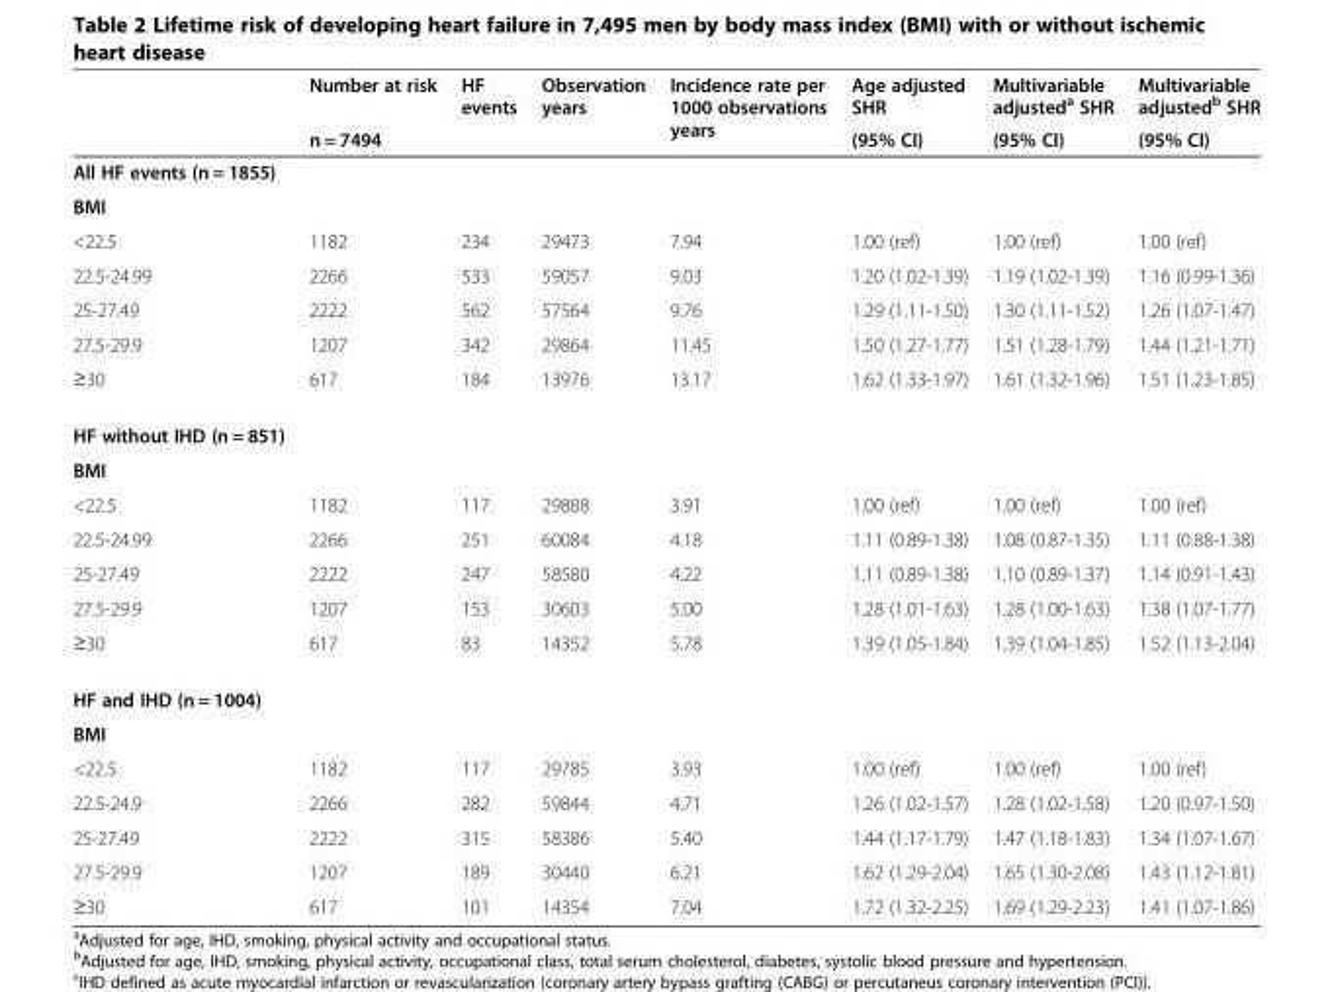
<table><thead><tr><td rowspan="2"></td><td rowspan="2">Number at risk n = 7494</td><td rowspan="2">HF events</td><td rowspan="2">Observation years</td><td rowspan="2">Incidence rate per 1000 observations years</td><td rowspan="2">Age adjusted SHR (95% CI)</td><td rowspan="2">Multivariable adjusted<sup>a</sup> SHR (95% CI)</td><td rowspan="2">Multivariable adjusted<sup>b</sup> SHR (95% CI)</td></tr><tr></tr></thead><tbody><tr><td colspan="8">All HF events (n = 1855)</td></tr><tr><td colspan="8">BMI</td></tr><tr><td>&lt;22.5</td><td>1182</td><td>234</td><td>29473</td><td>7.94</td><td>1.00 (ref)</td><td>1.00 (ref)</td><td>1.00 (ref)</td></tr><tr><td>22.5-24.99</td><td>2266</td><td>533</td><td>59057</td><td>9.03</td><td>1.20 (1.02-1.39)</td><td>1.19 (1.02-1.39)</td><td>1.16 (0.99-1.36)</td></tr><tr><td>25-27.49</td><td>2222</td><td>562</td><td>57564</td><td>9.76</td><td>1.29 (1.11-1.50)</td><td>1.30 (1.11-1.52)</td><td>1.26 (1.07-1.47)</td></tr><tr><td>27.5-29.9</td><td>1207</td><td>342</td><td>29864</td><td>11.45</td><td>1.50 (1.27-1.77)</td><td>1.51 (1.28-1.79)</td><td>1.44 (1.21-1.71)</td></tr><tr><td>≥30</td><td>617</td><td>184</td><td>13976</td><td>13.17</td><td>1.62 (1.33-1.97)</td><td>1.61 (1.32-1.96)</td><td>1.51 (1.23-1.85)</td></tr><tr><td colspan="8">HF without IHD (n = 851)</td></tr><tr><td colspan="8">BMI</td></tr><tr><td>&lt;22.5</td><td>1182</td><td>117</td><td>29888</td><td>3.91</td><td>1.00 (ref)</td><td>1.00 (ref)</td><td>1.00 (ref)</td></tr><tr><td>22.5-24.99</td><td>2266</td><td>251</td><td>60084</td><td>4.18</td><td>1.11 (0.89-1.38)</td><td>1.08 (0.87-1.35)</td><td>1.11 (0.88-1.38)</td></tr><tr><td>25-27.49</td><td>2222</td><td>247</td><td>58580</td><td>4.22</td><td>1.11 (0.89-1.38)</td><td>1.10 (0.89-1.37)</td><td>1.14 (0.91-1.43)</td></tr><tr><td>27.5-29.9</td><td>1207</td><td>153</td><td>30603</td><td>5.00</td><td>1.28 (1.01-1.63)</td><td>1.28 (1.00-1.63)</td><td>1.38 (1.07-1.77)</td></tr><tr><td>≥30</td><td>617</td><td>83</td><td>14352</td><td>5.78</td><td>1.39 (1.05-1.84)</td><td>1.39 (1.04-1.85)</td><td>1.52 (1.13-2.04)</td></tr><tr><td colspan="8">HF and IHD (n = 1004)</td></tr><tr><td colspan="8">BMI</td></tr><tr><td>&lt;22.5</td><td>1182</td><td>117</td><td>29785</td><td>3.93</td><td>1.00 (ref)</td><td>1.00 (ref)</td><td>1.00 (ref)</td></tr><tr><td>22.5-24.9</td><td>2266</td><td>282</td><td>59844</td><td>4.71</td><td>1.26 (1.02-1.57)</td><td>1.28 (1.02-1.58)</td><td>1.20 (0.97-1.50)</td></tr><tr><td>25-27.49</td><td>2222</td><td>315</td><td>58386</td><td>5.40</td><td>1.44 (1.17-1.79)</td><td>1.47 (1.18-1.83)</td><td>1.34 (1.07-1.67)</td></tr><tr><td>27.5-29.9</td><td>1207</td><td>189</td><td>30440</td><td>6.21</td><td>1.62 (1.29-2.04)</td><td>1.65 (1.30-2.08)</td><td>1.43 (1.12-1.81)</td></tr><tr><td>≥30</td><td>617</td><td>101</td><td>14354</td><td>7.04</td><td>1.72 (1.32-2.25)</td><td>1.69 (1.29-2.23)</td><td>1.41 (1.07-1.86)</td></tr></tbody></table>